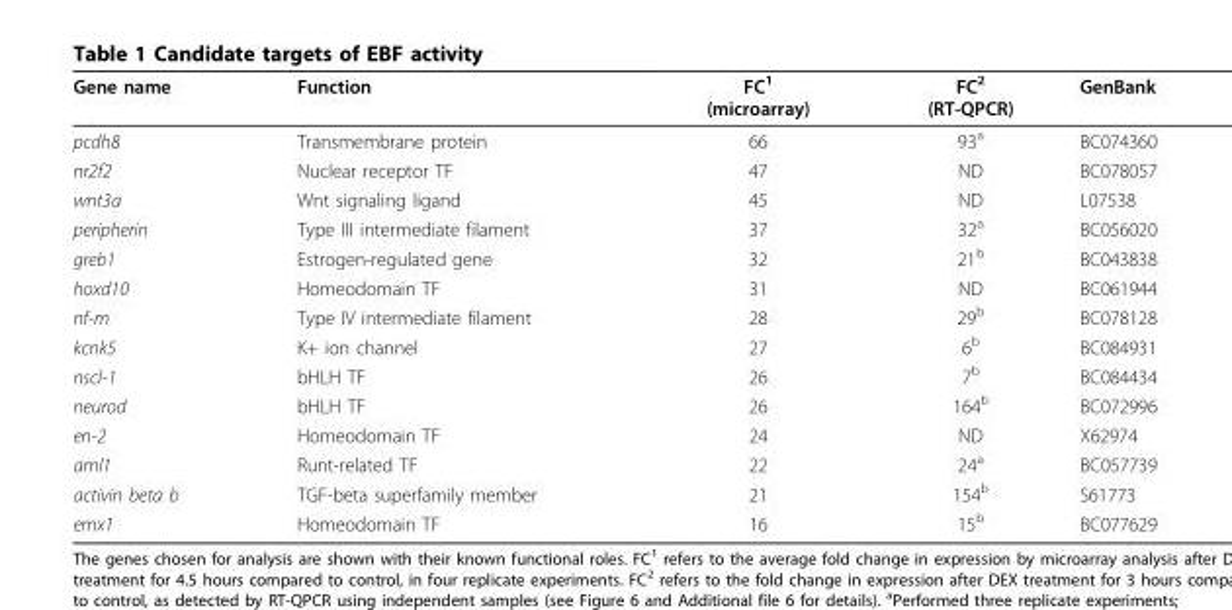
<table><thead><tr><td>Gene name</td><td>Function</td><td>FC<sup>1</sup> (microarray)</td><td>FC<sup>2</sup> (RT-QPCR)</td><td>GenBank</td></tr></thead><tbody><tr><td>pcdh8</td><td>Transmembrane protein</td><td>66</td><td>93<sup>a</sup></td><td>BC074360</td></tr><tr><td>nr2f2</td><td>Nuclear receptor TF</td><td>47</td><td>ND</td><td>BC078057</td></tr><tr><td>wnt3a</td><td>Wnt signaling ligand</td><td>45</td><td>ND</td><td>L07538</td></tr><tr><td>peripherin</td><td>Type III intermediate filament</td><td>37</td><td>32<sup>a</sup></td><td>BC056020</td></tr><tr><td>greb1</td><td>Estrogen-regulated gene</td><td>32</td><td>21<sup>b</sup></td><td>BC043838</td></tr><tr><td>hoxd10</td><td>Homeodomain TF</td><td>31</td><td>ND</td><td>BC061944</td></tr><tr><td>nf-m</td><td>Type IV intermediate filament</td><td>28</td><td>29<sup>b</sup></td><td>BC078128</td></tr><tr><td>kcnk5</td><td>K+ ion channel</td><td>27</td><td>6<sup>b</sup></td><td>BC084931</td></tr><tr><td>nscl-1</td><td>bHLH TF</td><td>26</td><td>7<sup>b</sup></td><td>BC084434</td></tr><tr><td>neurod</td><td>bHLH TF</td><td>26</td><td>164<sup>b</sup></td><td>BC072996</td></tr><tr><td>en-2</td><td>Homeodomain TF</td><td>24</td><td>ND</td><td>X62974</td></tr><tr><td>aml1</td><td>Runt-related TF</td><td>22</td><td>24<sup>a</sup></td><td>BC057739</td></tr><tr><td>activin beta b</td><td>TGF-beta superfamily member</td><td>21</td><td>154<sup>b</sup></td><td>S61773</td></tr><tr><td>emx1</td><td>Homeodomain TF</td><td>16</td><td>15<sup>b</sup></td><td>BC077629</td></tr></tbody></table>